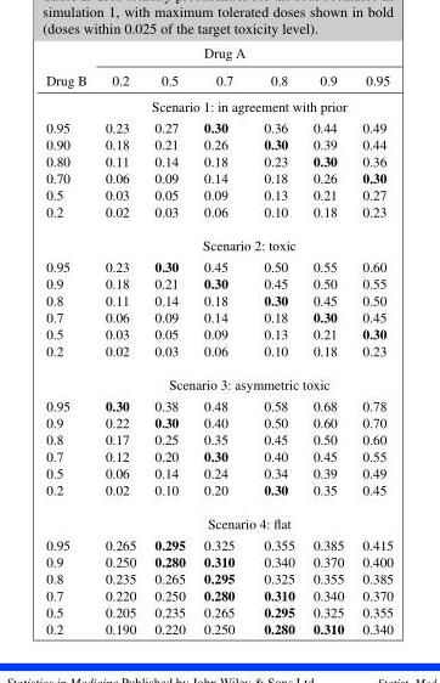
<table><thead><tr><td rowspan="2">Drug B</td><td colspan="6">Drug A</td></tr><tr><td>0.2</td><td>0.5</td><td>0.7</td><td>0.8</td><td>0.9</td><td>0.95</td></tr></thead><tbody><tr><td></td><td colspan="6">Scenario 1: in agreement with prior</td></tr><tr><td>0.95</td><td>0.23</td><td>0.27</td><td>0.30</td><td>0.36</td><td>0.44</td><td>0.49</td></tr><tr><td>0.90</td><td>0.18</td><td>0.21</td><td>0.26</td><td>0.30</td><td>0.39</td><td>0.44</td></tr><tr><td>0.80</td><td>0.11</td><td>0.14</td><td>0.18</td><td>0.23</td><td>0.30</td><td>0.36</td></tr><tr><td>0.70</td><td>0.06</td><td>0.09</td><td>0.14</td><td>0.18</td><td>0.26</td><td>0.30</td></tr><tr><td>0.5</td><td>0.03</td><td>0.05</td><td>0.09</td><td>0.13</td><td>0.21</td><td>0.27</td></tr><tr><td rowspan="2">0.2</td><td>0.02</td><td>0.03</td><td>0.06</td><td>0.10</td><td>0.18</td><td>0.23</td></tr><tr><td colspan="6">Scenario 2: toxic</td></tr><tr><td>0.95</td><td>0.23</td><td>0.30</td><td>0.45</td><td>0.50</td><td>0.55</td><td>0.60</td></tr><tr><td>0.9</td><td>0.18</td><td>0.21</td><td>0.30</td><td>0.45</td><td>0.50</td><td>0.55</td></tr><tr><td>0.8</td><td>0.11</td><td>0.14</td><td>0.18</td><td>0.30</td><td>0.45</td><td>0.50</td></tr><tr><td>0.7</td><td>0.06</td><td>0.09</td><td>0.14</td><td>0.18</td><td>0.30</td><td>0.45</td></tr><tr><td>0.5</td><td>0.03</td><td>0.05</td><td>0.09</td><td>0.13</td><td>0.21</td><td>0.30</td></tr><tr><td rowspan="2">0.2</td><td>0.02</td><td>0.03</td><td>0.06</td><td>0.10</td><td>0.18</td><td>0.23</td></tr><tr><td colspan="6">Scenario 3: asymmetric toxic</td></tr><tr><td>0.95</td><td>0.30</td><td>0.38</td><td>0.48</td><td>0.58</td><td>0.68</td><td>0.78</td></tr><tr><td>0.9</td><td>0.22</td><td>0.30</td><td>0.40</td><td>0.50</td><td>0.60</td><td>0.70</td></tr><tr><td>0.8</td><td>0.17</td><td>0.25</td><td>0.35</td><td>0.45</td><td>0.50</td><td>0.60</td></tr><tr><td>0.7</td><td>0.12</td><td>0.20</td><td>0.30</td><td>0.40</td><td>0.45</td><td>0.55</td></tr><tr><td>0.5</td><td>0.06</td><td>0.14</td><td>0.24</td><td>0.34</td><td>0.39</td><td>0.49</td></tr><tr><td rowspan="2">0.2</td><td>0.02</td><td>0.10</td><td>0.20</td><td>0.30</td><td>0.35</td><td>0.45</td></tr><tr><td colspan="6">Scenario 4: flat</td></tr><tr><td>0.95</td><td>0.265</td><td>0.295</td><td>0.325</td><td>0.355</td><td>0.385</td><td>0.415</td></tr><tr><td>0.9</td><td>0.250</td><td>0.280</td><td>0.310</td><td>0.340</td><td>0.370</td><td>0.400</td></tr><tr><td>0.8</td><td>0.235</td><td>0.265</td><td>0.295</td><td>0.325</td><td>0.355</td><td>0.385</td></tr><tr><td>0.7</td><td>0.220</td><td>0.250</td><td>0.280</td><td>0.310</td><td>0.340</td><td>0.370</td></tr><tr><td>0.5</td><td>0.205</td><td>0.235</td><td>0.265</td><td>0.295</td><td>0.325</td><td>0.355</td></tr><tr><td>0.2</td><td>0.190</td><td>0.220</td><td>0.250</td><td>0.280</td><td>0.310</td><td>0.340</td></tr></tbody></table>